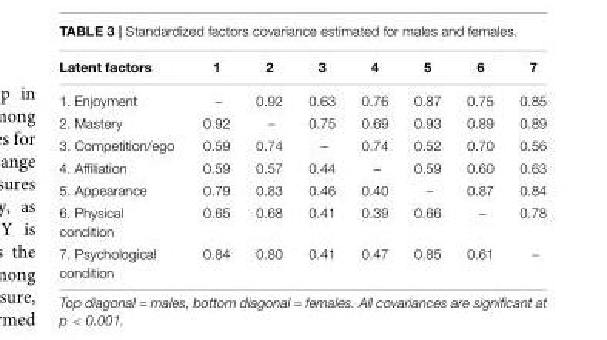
<table><thead><tr><td>Latent factors</td><td>1</td><td>2</td><td>3</td><td>4</td><td>5</td><td>6</td><td>7</td></tr></thead><tbody><tr><td>1. Enjoyment</td><td>–</td><td>0.92</td><td>0.63</td><td>0.76</td><td>0.87</td><td>0.75</td><td>0.85</td></tr><tr><td>2. Mastery</td><td>0.92</td><td>–</td><td>0.75</td><td>0.69</td><td>0.93</td><td>0.89</td><td>0.89</td></tr><tr><td>3. Competition/ego</td><td>0.59</td><td>0.74</td><td>–</td><td>0.74</td><td>0.52</td><td>0.70</td><td>0.56</td></tr><tr><td>4. Affiliation</td><td>0.59</td><td>0.57</td><td>0.44</td><td>–</td><td>0.59</td><td>0.60</td><td>0.63</td></tr><tr><td>5. Appearance</td><td>0.79</td><td>0.83</td><td>0.46</td><td>0.40</td><td>–</td><td>0.87</td><td>0.84</td></tr><tr><td>6. Physical condition</td><td>0.65</td><td>0.68</td><td>0.41</td><td>0.39</td><td>0.66</td><td>–</td><td>0.78</td></tr><tr><td>7. Psychological condition</td><td>0.84</td><td>0.80</td><td>0.41</td><td>0.47</td><td>0.85</td><td>0.61</td><td>–</td></tr></tbody></table>